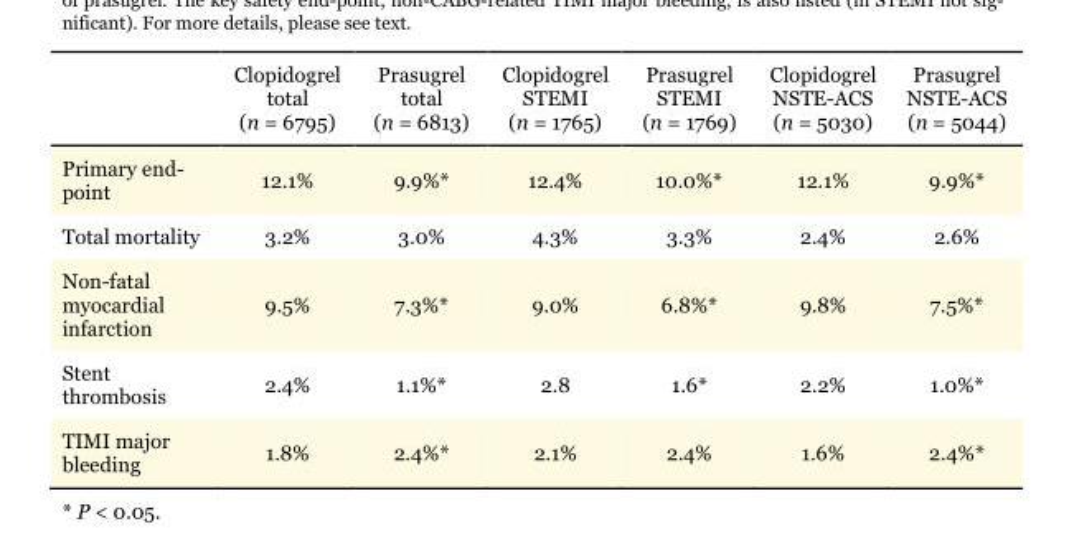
<table><thead><tr><td></td><td>Clopidogrel total (n = 6795)</td><td>Prasugrel total (n = 6813)</td><td>Clopidogrel STEMI (n = 1765)</td><td>Prasugrel STEMI (n = 1769)</td><td>Clopidogrel NSTE-ACS (n = 5030)</td><td>Prasugrel NSTE-ACS (n = 5044)</td></tr></thead><tbody><tr><td>Primary end- point</td><td>12.1%</td><td>9.9%*</td><td>12.4%</td><td>10.0%*</td><td>12.1%</td><td>9.9%*</td></tr><tr><td>Total mortality</td><td>3.2%</td><td>3.0%</td><td>4.3%</td><td>3.3%</td><td>2.4%</td><td>2.6%</td></tr><tr><td>Non-fatal myocardial infarction</td><td>9.5%</td><td>7.3%*</td><td>9.0%</td><td>6.8%*</td><td>9.8%</td><td>7.5%*</td></tr><tr><td>Stent thrombosis</td><td>2.4%</td><td>1.1%*</td><td>2.8</td><td>1.6*</td><td>2.2%</td><td>1.0%*</td></tr><tr><td>TIMI major bleeding</td><td>1.8%</td><td>2.4%*</td><td>2.1%</td><td>2.4%</td><td>1.6%</td><td>2.4%*</td></tr></tbody></table>